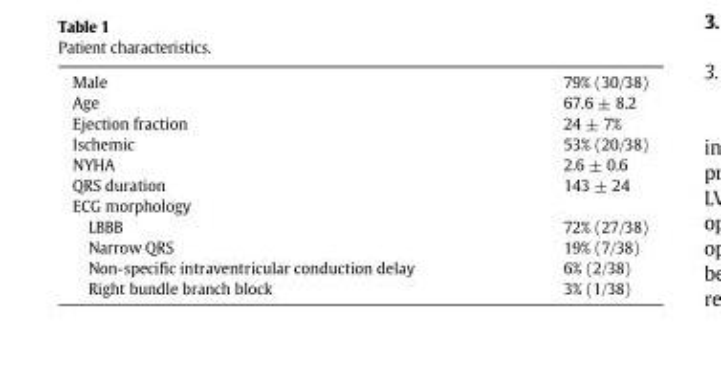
<table><tbody><tr><td>Male</td><td>79% (30/38)</td></tr><tr><td>Age</td><td>67.6 ± 8.2</td></tr><tr><td>Ejection fraction</td><td>24 ± 7%</td></tr><tr><td>Ischemic</td><td>53% (20/38)</td></tr><tr><td>NYHA</td><td>2.6 ± 0.6</td></tr><tr><td>QRS duration</td><td>143 ± 24</td></tr><tr><td colspan="2">ECG morphology</td></tr><tr><td>LBBB</td><td>72% (27/38)</td></tr><tr><td>Narrow QRS</td><td>19% (7/38)</td></tr><tr><td>Non-specific intraventricular conduction delay</td><td>6% (2/38)</td></tr><tr><td>Right bundle branch block</td><td>3% (1/38)</td></tr></tbody></table>